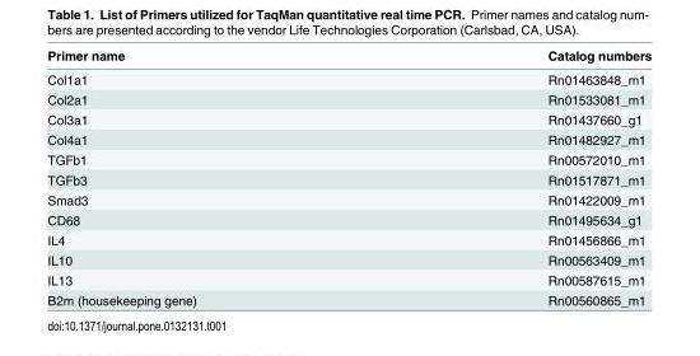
<table><thead><tr><td>Primer name</td><td>Catalog numbers</td></tr></thead><tbody><tr><td>Col1a1</td><td>Rn01463848_m1</td></tr><tr><td>Col2a1</td><td>Rn01533081_m1</td></tr><tr><td>Col3a1</td><td>Rn01437660_g1</td></tr><tr><td>Col4a1</td><td>Rn01482927_m1</td></tr><tr><td>TGFb1</td><td>Rn00572010_m1</td></tr><tr><td>TGFb3</td><td>Rn01517871_m1</td></tr><tr><td>Smad3</td><td>Rn01422009_m1</td></tr><tr><td>CD68</td><td>Rn01495634_g1</td></tr><tr><td>IL4</td><td>Rn01456866_m1</td></tr><tr><td>IL10</td><td>Rn00563409_m1</td></tr><tr><td>IL13</td><td>Rn00587615_m1</td></tr><tr><td>B2m (housekeeping gene)</td><td>Rn00560865_m1</td></tr></tbody></table>